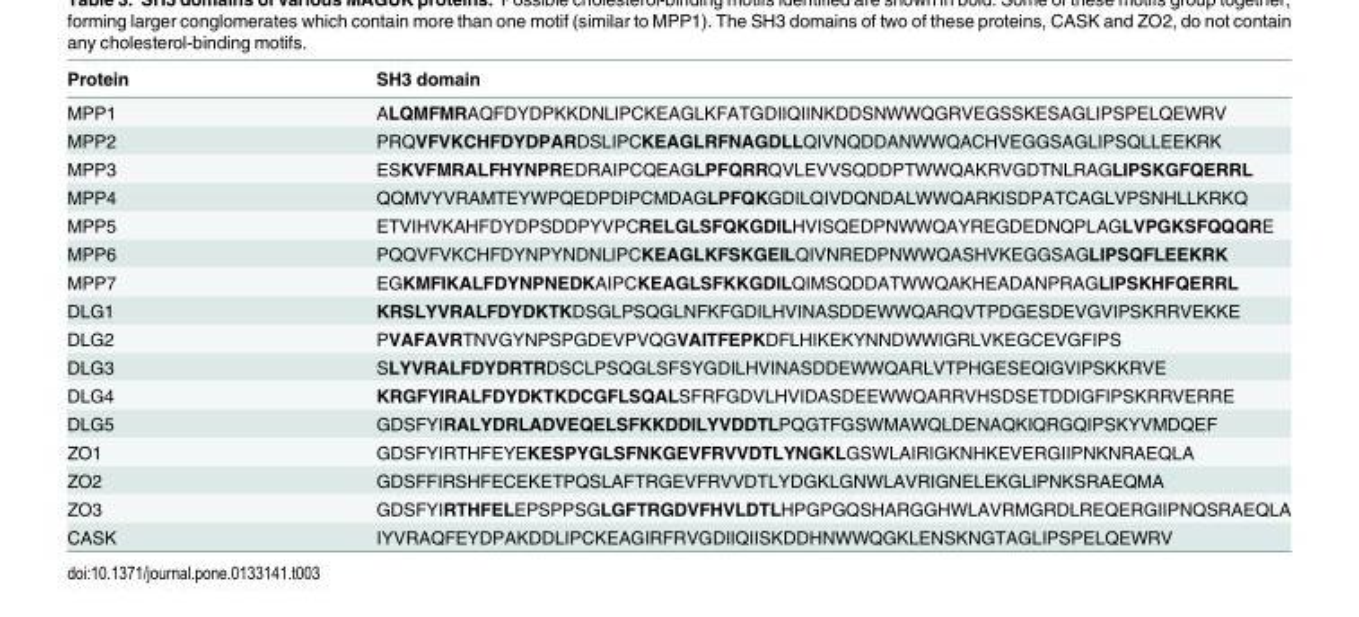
<table><thead><tr><td>Protein</td><td>SH3 domain</td></tr></thead><tbody><tr><td>MPP1</td><td>ALQMFMRAQFDYDPKKDNLIPCKEAGLKFATGDIIQIINKDDSNWWQGRVEGSSKESAGLIPSPELQEWRV</td></tr><tr><td>MPP2</td><td>PRQVFVKCHFDYDPARDSLIPCKEAGLRFNAGDLLQIVNQDDANWWQACHVEGGSAGLIPSQLLEEKRK</td></tr><tr><td>MPP3</td><td>ESKVFMRALFHYNPREDRAIPCQEAGLPFQRRQVLEVVSQDDPTWWQAKRVGDTNLRAGLIPSKGFQERRL</td></tr><tr><td>MPP4</td><td>QQMVYVRAMTEYWPQEDPDIPCMDAGLPFQKGDILQIVDQNDALWWQARKISDPATCAGLVPSNHLLKRKQ</td></tr><tr><td>MPP5</td><td>ETVIHVKAHFDYDPSDDPYVPCRELGLSFQKGDILHVISQEDPNWWQAYREGDEDNQPLAGLVPGKSFQQQRE</td></tr><tr><td>MPP6</td><td>PQQVFVKCHFDYNPYNDNLIPCKEAGLKFSKGEILQIVNREDPNWWQASHVKEGGSAGLIPSQFLEEKRK</td></tr><tr><td>MPP7</td><td>EGKMFIKALFDYNPNEDKAIPCKEAGLSFKKGDILQIMSQDDATWWQAKHEADANPRAGLIPSKHFQERRL</td></tr><tr><td>DLG1</td><td>KRSLYVRALFDYDKTKDSGLPSQGLNFKFGDILHVINASDDEWWQARQVTPDGESDEVGVIPSKRRVEKKE</td></tr><tr><td>DLG2</td><td>PVAFAVRTNVGYNPSPGDEVPVQGVAITFEPKDFLHIKEKYNNDWWIGRLVKEGCEVGFIPS</td></tr><tr><td>DLG3</td><td>SLYVRALFDYDRTRDSCLPSQGLSFSYGDILHVINASDDEWWQARLVTPHGESEQIGVIPSKKRVE</td></tr><tr><td>DLG4</td><td>KRGFYIRALFDYDKTKDCGFLSQALSFRFGDVLHVIDASDEEWWQARRVHSDSETDDIGFIPSKRRVERRE</td></tr><tr><td>DLG5</td><td>GDSFYIRALYDRLADVEQELSFKKDDILYVDDTLPQGTFGSWMAWQLDENAQKIQRGQIPSKYVMDQEF</td></tr><tr><td>ZO1</td><td>GDSFYIRTHFEYEKESPYGLSFNKGEVFRVVDTLYNGKLGSWLAIRIGKNHKEVERGIIPNKNRAEQLA</td></tr><tr><td>ZO2</td><td>GDSFFIRSHFECEKETPQSLAFTRGEVFRVVDTLYDGKLGNWLAVRIGNELEKGLIPNKSRAEQMA</td></tr><tr><td>ZO3</td><td>GDSFYIRTHFELEPSPPSGLGFTRGDVFHVLDTLHPGPGQSHARGGHWLAVRMGRDLREQERGIIPNQSRAEQLA</td></tr><tr><td>CASK</td><td>IYVRAQFEYDPAKDDLIPCKEAGIRFRVGDIIQIISKDDHNWWQGKLENSKNGTAGLIPSPELQEWRV</td></tr></tbody></table>